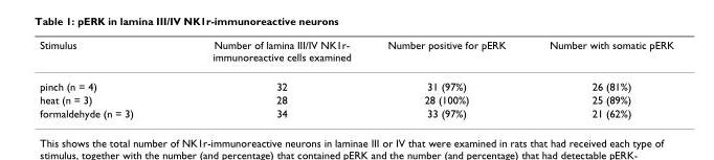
<table><thead><tr><td>Stimulus</td><td>Number of lamina III/IV NK1r- immunoreactive cells examined</td><td>Number positive for pERK</td><td>Number with somatic pERK</td></tr></thead><tbody><tr><td>pinch (n = 4)</td><td>32</td><td>31 (97%)</td><td>26 (81%)</td></tr><tr><td>heat (n = 3)</td><td>28</td><td>28 (100%)</td><td>25 (89%)</td></tr><tr><td>formaldehyde (n = 3)</td><td>34</td><td>33 (97%)</td><td>21 (62%)</td></tr></tbody></table>